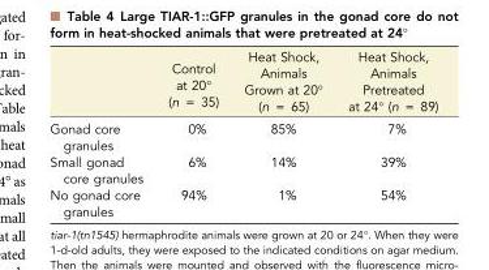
<table><thead><tr><td></td><td>Control at 20° (n = 35)</td><td>Heat Shock, Animals Grown at 20° (n = 65)</td><td>Heat Shock, Animals Pretreated at 24° (n = 89)</td></tr></thead><tbody><tr><td>Gonad core granules</td><td>0%</td><td>85%</td><td>7%</td></tr><tr><td>Small gonad core granules</td><td>6%</td><td>14%</td><td>39%</td></tr><tr><td>No gonad core granules</td><td>94%</td><td>1%</td><td>54%</td></tr></tbody></table>